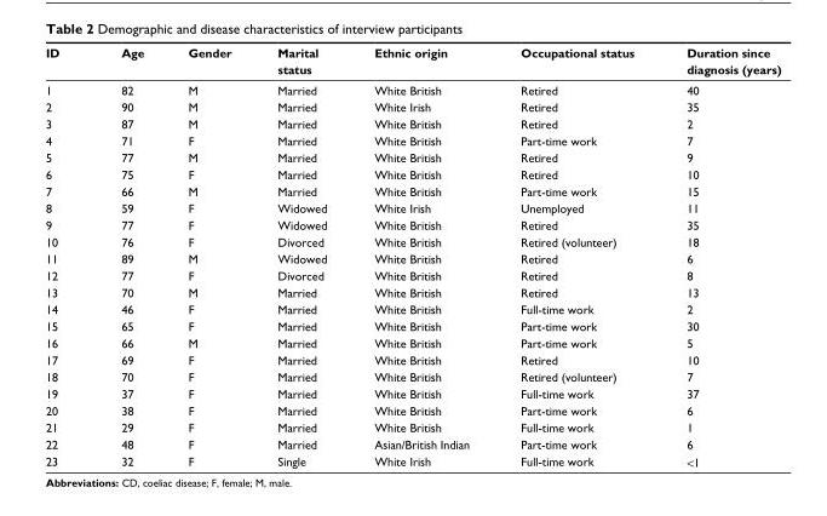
<table><thead><tr><td>ID</td><td>Age</td><td>Gender</td><td>Marital status</td><td>Ethnic origin</td><td>Occupational status</td><td>Duration since diagnosis (years)</td></tr></thead><tbody><tr><td>1</td><td>82</td><td>M</td><td>Married</td><td>White British</td><td>Retired</td><td>40</td></tr><tr><td>2</td><td>90</td><td>M</td><td>Married</td><td>White Irish</td><td>Retired</td><td>35</td></tr><tr><td>3</td><td>87</td><td>M</td><td>Married</td><td>White British</td><td>Retired</td><td>2</td></tr><tr><td>4</td><td>71</td><td>F</td><td>Married</td><td>White British</td><td>Part-time work</td><td>7</td></tr><tr><td>5</td><td>77</td><td>M</td><td>Married</td><td>White British</td><td>Retired</td><td>9</td></tr><tr><td>6</td><td>75</td><td>F</td><td>Married</td><td>White British</td><td>Retired</td><td>10</td></tr><tr><td>7</td><td>66</td><td>M</td><td>Married</td><td>White British</td><td>Part-time work</td><td>15</td></tr><tr><td>8</td><td>59</td><td>F</td><td>Widowed</td><td>White Irish</td><td>Unemployed</td><td>11</td></tr><tr><td>9</td><td>77</td><td>F</td><td>Widowed</td><td>White British</td><td>Retired</td><td>35</td></tr><tr><td>10</td><td>76</td><td>F</td><td>Divorced</td><td>White British</td><td>Retired (volunteer)</td><td>18</td></tr><tr><td>11</td><td>89</td><td>M</td><td>Widowed</td><td>White British</td><td>Retired</td><td>6</td></tr><tr><td>12</td><td>77</td><td>F</td><td>Divorced</td><td>White British</td><td>Retired</td><td>8</td></tr><tr><td>13</td><td>70</td><td>M</td><td>Married</td><td>White British</td><td>Retired</td><td>13</td></tr><tr><td>14</td><td>46</td><td>F</td><td>Married</td><td>White British</td><td>Full-time work</td><td>2</td></tr><tr><td>15</td><td>65</td><td>F</td><td>Married</td><td>White British</td><td>Part-time work</td><td>30</td></tr><tr><td>16</td><td>66</td><td>M</td><td>Married</td><td>White British</td><td>Part-time work</td><td>5</td></tr><tr><td>17</td><td>69</td><td>F</td><td>Married</td><td>White British</td><td>Retired</td><td>10</td></tr><tr><td>18</td><td>70</td><td>F</td><td>Married</td><td>White British</td><td>Retired (volunteer)</td><td>7</td></tr><tr><td>19</td><td>37</td><td>F</td><td>Married</td><td>White British</td><td>Full-time work</td><td>37</td></tr><tr><td>20</td><td>38</td><td>F</td><td>Married</td><td>White British</td><td>Part-time work</td><td>6</td></tr><tr><td>21</td><td>29</td><td>F</td><td>Married</td><td>White British</td><td>Full-time work</td><td>1</td></tr><tr><td>22</td><td>48</td><td>F</td><td>Married</td><td>Asian/British Indian</td><td>Part-time work</td><td>6</td></tr><tr><td>23</td><td>32</td><td>F</td><td>Single</td><td>White Irish</td><td>Full-time work</td><td>&lt;1</td></tr></tbody></table>